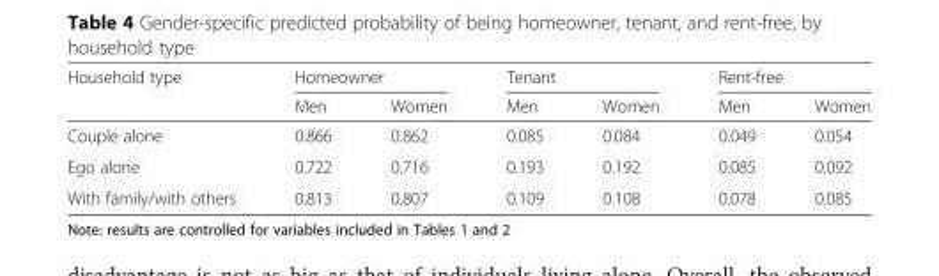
<table><thead><tr><td rowspan="2">Household type</td><td colspan="2">Homeowner</td><td colspan="2">Tenant</td><td colspan="2">Rent-free</td></tr><tr><td>Men</td><td>Women</td><td>Men</td><td>Women</td><td>Men</td><td>Women</td></tr></thead><tbody><tr><td>Couple alone</td><td>0.866</td><td>0.862</td><td>0.085</td><td>0.084</td><td>0.049</td><td>0.054</td></tr><tr><td>Ego alone</td><td>0.722</td><td>0.716</td><td>0.193</td><td>0.192</td><td>0.085</td><td>0.092</td></tr><tr><td>With family/with others</td><td>0.813</td><td>0.807</td><td>0.109</td><td>0.108</td><td>0.078</td><td>0.085</td></tr></tbody></table>